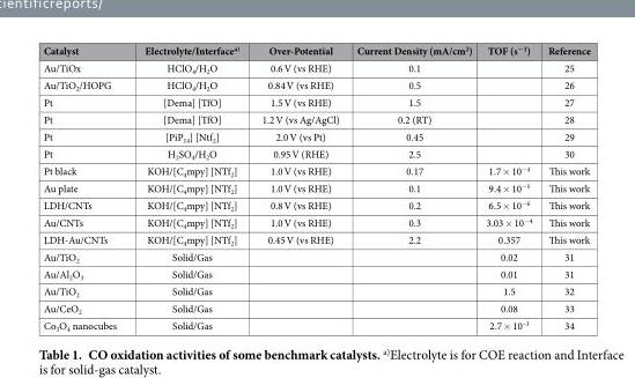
<table><thead><tr><td>Catalyst</td><td>Electrolyte/Interfacea)</td><td>Over-Potential</td><td>Current Density (mA/cm<sup>2</sup>)</td><td>TOF (s<sup>−1</sup>)</td><td>Reference</td></tr></thead><tbody><tr><td>Au/TiOx</td><td>HClO<sub>4</sub>/H<sub>2</sub>O</td><td>0.6 V (vs RHE)</td><td>0.1</td><td></td><td>25</td></tr><tr><td>Au/TiO<sub>2</sub>/HOPG</td><td>HClO<sub>4</sub>/H<sub>2</sub>O</td><td>0.84 V (vs RHE)</td><td>0.5</td><td></td><td>26</td></tr><tr><td>Pt</td><td>[Dema] [TfO]</td><td>1.5 V (vs RHE)</td><td>1.5</td><td></td><td>27</td></tr><tr><td>Pt</td><td>[Dema] [TfO]</td><td>1.2 V (vs Ag/AgCl)</td><td>0.2 (RT)</td><td></td><td>28</td></tr><tr><td>Pt</td><td>[PiP<sub>14</sub>] [Ntf<sub>2</sub>]</td><td>2.0 V (vs Pt)</td><td>0.45</td><td></td><td>29</td></tr><tr><td>Pt</td><td>H<sub>2</sub>SO<sub>4</sub>/H<sub>2</sub>O</td><td>0.95 V (RHE)</td><td>2.5</td><td></td><td>30</td></tr><tr><td>Pt black</td><td>KOH/[C<sub>4</sub>mpy] [NTf<sub>2</sub>]</td><td>1.0 V (vs RHE)</td><td>0.17</td><td>1.7 × 10<sup>−4</sup></td><td>This work</td></tr><tr><td>Au plate</td><td>KOH/[C<sub>4</sub>mpy] [NTf<sub>2</sub>]</td><td>1.0 V (vs RHE)</td><td>0.1</td><td>9.4 × 10<sup>−5</sup></td><td>This work</td></tr><tr><td>LDH/CNTs</td><td>KOH/[C<sub>4</sub>mpy] [NTf<sub>2</sub>]</td><td>0.8 V (vs RHE)</td><td>0.2</td><td>6.5 × 10<sup>−6</sup></td><td>This work</td></tr><tr><td>Au/CNTs</td><td>KOH/[C<sub>4</sub>mpy] [NTf<sub>2</sub>]</td><td>1.0 V (vs RHE)</td><td>0.3</td><td>3.03 × 10<sup>−4</sup></td><td>This work</td></tr><tr><td>LDH-Au/CNTs</td><td>KOH/[C<sub>4</sub>mpy] [NTf<sub>2</sub>]</td><td>0.45 V (vs RHE)</td><td>2.2</td><td>0.357</td><td>This work</td></tr><tr><td>Au/TiO<sub>2</sub></td><td>Solid/Gas</td><td></td><td></td><td>0.02</td><td>31</td></tr><tr><td>Au/Al<sub>2</sub>O<sub>3</sub></td><td>Solid/Gas</td><td></td><td></td><td>0.01</td><td>31</td></tr><tr><td>Au/TiO<sub>2</sub></td><td>Solid/Gas</td><td></td><td></td><td>1.5</td><td>32</td></tr><tr><td>Au/CeO<sub>2</sub></td><td>Solid/Gas</td><td></td><td></td><td>0.08</td><td>33</td></tr><tr><td>Co<sub>3</sub>O<sub>4</sub> nanocubes</td><td>Solid/Gas</td><td></td><td></td><td>2.7 × 10<sup>–3</sup></td><td>34</td></tr></tbody></table>